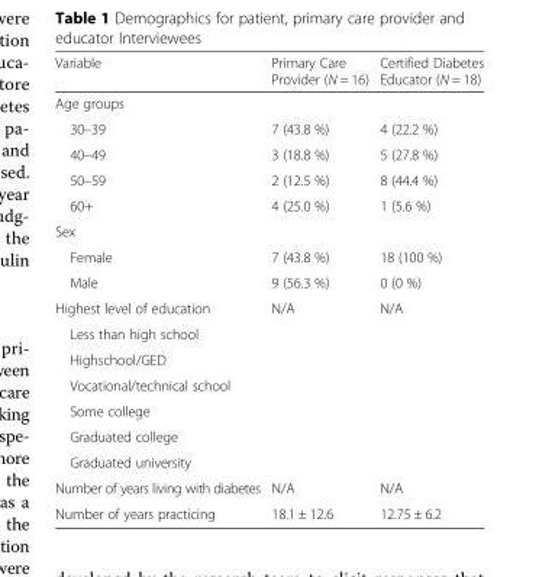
<table><thead><tr><td>Variable</td><td>Primary Care Provider (N = 16)</td><td>Certified Diabetes Educator (N = 18)</td></tr></thead><tbody><tr><td colspan="3">Age groups</td></tr><tr><td>30–39</td><td>7 (43.8 %)</td><td>4 (22.2 %)</td></tr><tr><td>40–49</td><td>3 (18.8 %)</td><td>5 (27.8 %)</td></tr><tr><td>50–59</td><td>2 (12.5 %)</td><td>8 (44.4 %)</td></tr><tr><td>60+</td><td>4 (25.0 %)</td><td>1 (5.6 %)</td></tr><tr><td colspan="3">Sex</td></tr><tr><td>Female</td><td>7 (43.8 %)</td><td>18 (100 %)</td></tr><tr><td>Male</td><td>9 (56.3 %)</td><td>0 (0 %)</td></tr><tr><td>Highest level of education</td><td>N/A</td><td>N/A</td></tr><tr><td colspan="3">Less than high school</td></tr><tr><td colspan="3">Highschool/GED</td></tr><tr><td colspan="3">Vocational/technical school</td></tr><tr><td colspan="3">Some college</td></tr><tr><td colspan="3">Graduated college</td></tr><tr><td colspan="3">Graduated university</td></tr><tr><td>Number of years living with diabetes</td><td>N/A</td><td>N/A</td></tr><tr><td>Number of years practicing</td><td>18.1 ± 12.6</td><td>12.75 ± 6.2</td></tr></tbody></table>